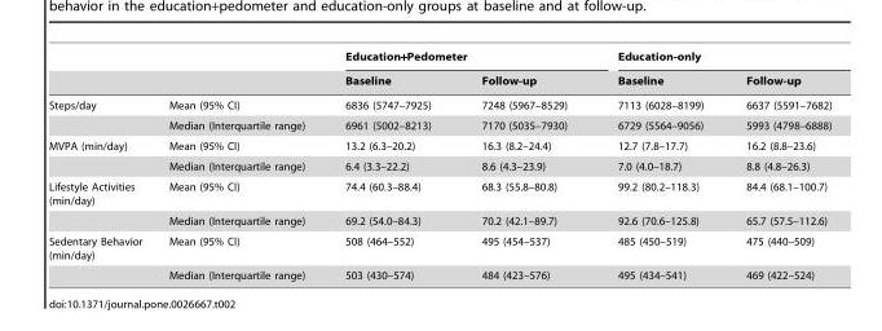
<table><thead><tr><td rowspan="2"></td><td rowspan="2"></td><td colspan="2">Education+Pedometer</td><td colspan="2">Education-only</td></tr><tr><td>Baseline</td><td>Follow-up</td><td>Baseline</td><td>Follow-up</td></tr></thead><tbody><tr><td rowspan="2">Steps/day</td><td>Mean (95% CI)</td><td>6836 (5747–7925)</td><td>7248 (5967–8529)</td><td>7113 (6028–8199)</td><td>6637 (5591–7682)</td></tr><tr><td>Median (Interquartile range)</td><td>6961 (5002–8213)</td><td>7170 (5035–7930)</td><td>6729 (5564–9056)</td><td>5993 (4798–6888)</td></tr><tr><td rowspan="2">MVPA (min/day)</td><td>Mean (95% CI)</td><td>13.2 (6.3–20.2)</td><td>16.3 (8.2–24.4)</td><td>12.7 (7.8–17.7)</td><td>16.2 (8.8–23.6)</td></tr><tr><td>Median (Interquartile range)</td><td>6.4 (3.3–22.2)</td><td>8.6 (4.3–23.9)</td><td>7.0 (4.0–18.7)</td><td>8.8 (4.8–26.3)</td></tr><tr><td rowspan="2">Lifestyle Activities (min/day)</td><td>Mean (95% CI)</td><td>74.4 (60.3–88.4)</td><td>68.3 (55.8–80.8)</td><td>99.2 (80.2–118.3)</td><td>84.4 (68.1–100.7)</td></tr><tr><td>Median (Interquartile range)</td><td>69.2 (54.0–84.3)</td><td>70.2 (42.1–89.7)</td><td>92.6 (70.6–125.8)</td><td>65.7 (57.5–112.6)</td></tr><tr><td rowspan="2">Sedentary Behavior (min/day)</td><td>Mean (95% CI)</td><td>508 (464–552)</td><td>495 (454–537)</td><td>485 (450–519)</td><td>475 (440–509)</td></tr><tr><td>Median (Interquartile range)</td><td>503 (430–574)</td><td>484 (423–576)</td><td>495 (434–541)</td><td>469 (422–524)</td></tr></tbody></table>